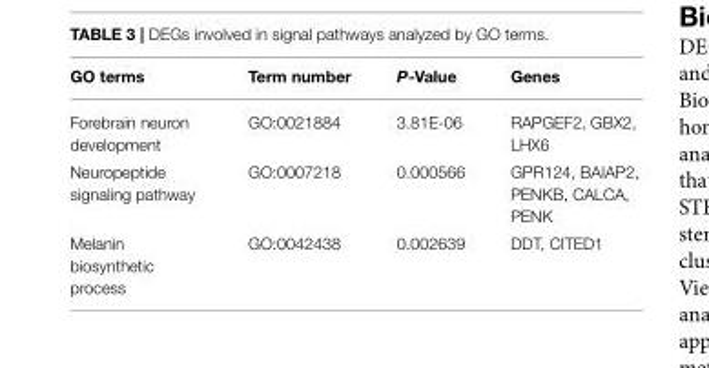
<table><thead><tr><td>GO terms</td><td>Term number</td><td>P-Value</td><td>Genes</td></tr></thead><tbody><tr><td>Forebrain neuron development</td><td>GO:0021884</td><td>3.81E-06</td><td>RAPGEF2, GBX2, LHX6</td></tr><tr><td>Neuropeptide signaling pathway</td><td>GO:0007218</td><td>0.000566</td><td>GPR124, BAIAP2, PENKB, CALCA, PENK</td></tr><tr><td>Melanin biosynthetic process</td><td>GO:0042438</td><td>0.002639</td><td>DDT, CITED1</td></tr></tbody></table>